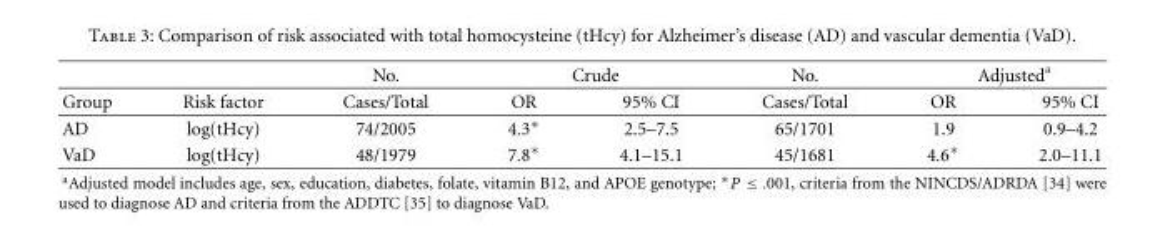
<table><thead><tr><td rowspan="2">Group</td><td rowspan="2">Risk factor</td><td rowspan="2">No. Cases/Total</td><td colspan="2">Crude</td><td rowspan="2">No. Cases/Total</td><td colspan="2">Adjusteda</td></tr><tr><td>OR</td><td>95% CI</td><td>OR</td><td>95% CI</td></tr></thead><tbody><tr><td>AD</td><td>log(tHcy)</td><td>74/2005</td><td>4.3∗</td><td>2.5–7.5</td><td>65/1701</td><td>1.9</td><td>0.9–4.2</td></tr><tr><td>VaD</td><td>log(tHcy)</td><td>48/1979</td><td>7.8∗</td><td>4.1–15.1</td><td>45/1681</td><td>4.6∗</td><td>2.0–11.1</td></tr></tbody></table>